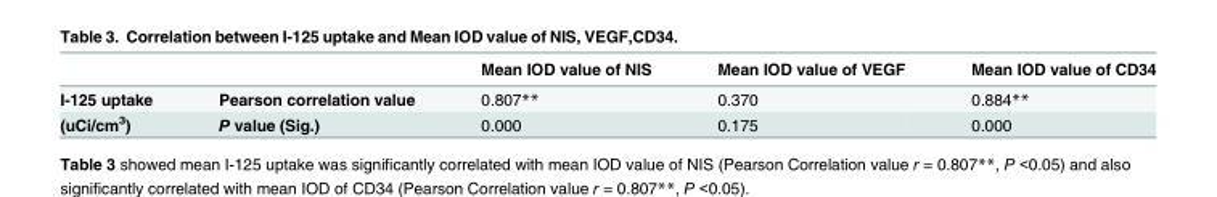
<table><thead><tr><td></td><td></td><td>Mean IOD value of NIS</td><td>Mean IOD value of VEGF</td><td>Mean IOD value of CD34</td></tr></thead><tbody><tr><td>I-125 uptake</td><td>Pearson correlation value</td><td>0.807**</td><td>0.370</td><td>0.884**</td></tr><tr><td>(uCi/cm<sup>3</sup>)</td><td>P value (Sig.)</td><td>0.000</td><td>0.175</td><td>0.000</td></tr></tbody></table>